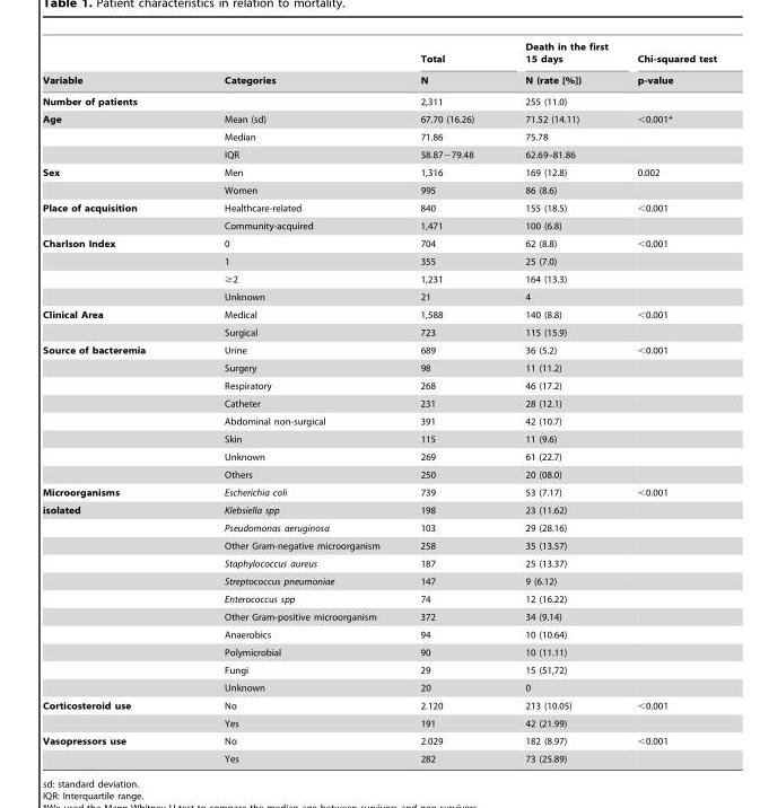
<table><thead><tr><td rowspan="2">Variable</td><td rowspan="2">Categories</td><td rowspan="2">Total N</td><td rowspan="2">Death in the first 15 days N (rate [%])</td><td rowspan="2">Chi-squared test p-value</td></tr><tr></tr></thead><tbody><tr><td>Number of patients</td><td></td><td>2,311</td><td>255 (11.0)</td><td></td></tr><tr><td rowspan="3">Age</td><td>Mean (sd)</td><td>67.70 (16.26)</td><td>71.52 (14.11)</td><td>&lt;0.001*</td></tr><tr><td>Median</td><td>71.86</td><td>75.78</td><td></td></tr><tr><td>IQR</td><td>58.87−79.48</td><td>62.69–81.86</td><td></td></tr><tr><td rowspan="2">Sex</td><td>Men</td><td>1,316</td><td>169 (12.8)</td><td>0.002</td></tr><tr><td>Women</td><td>995</td><td>86 (8.6)</td><td></td></tr><tr><td rowspan="2">Place of acquisition</td><td>Healthcare-related</td><td>840</td><td>155 (18.5)</td><td>&lt;0.001</td></tr><tr><td>Community-acquired</td><td>1,471</td><td>100 (6.8)</td><td></td></tr><tr><td rowspan="4">Charlson Index</td><td>0</td><td>704</td><td>62 (8.8)</td><td>&lt;0.001</td></tr><tr><td>1</td><td>355</td><td>25 (7.0)</td><td></td></tr><tr><td>≥2</td><td>1,231</td><td>164 (13.3)</td><td></td></tr><tr><td>Unknown</td><td>21</td><td>4</td><td></td></tr><tr><td rowspan="2">Clinical Area</td><td>Medical</td><td>1,588</td><td>140 (8.8)</td><td>&lt;0.001</td></tr><tr><td>Surgical</td><td>723</td><td>115 (15.9)</td><td></td></tr><tr><td rowspan="8">Source of bacteremia</td><td>Urine</td><td>689</td><td>36 (5.2)</td><td>&lt;0.001</td></tr><tr><td>Surgery</td><td>98</td><td>11 (11.2)</td><td></td></tr><tr><td>Respiratory</td><td>268</td><td>46 (17.2)</td><td></td></tr><tr><td>Catheter</td><td>231</td><td>28 (12.1)</td><td></td></tr><tr><td>Abdominal non-surgical</td><td>391</td><td>42 (10.7)</td><td></td></tr><tr><td>Skin</td><td>115</td><td>11 (9.6)</td><td></td></tr><tr><td>Unknown</td><td>269</td><td>61 (22.7)</td><td></td></tr><tr><td>Others</td><td>250</td><td>20 (08.0)</td><td></td></tr><tr><td>Microorganisms</td><td>Escherichia coli</td><td>739</td><td>53 (7.17)</td><td>&lt;0.001</td></tr><tr><td rowspan="11">isolated</td><td>Klebsiella spp</td><td>198</td><td>23 (11.62)</td><td></td></tr><tr><td>Pseudomonas aeruginosa</td><td>103</td><td>29 (28.16)</td><td></td></tr><tr><td>Other Gram-negative microorganism</td><td>258</td><td>35 (13.57)</td><td></td></tr><tr><td>Staphylococcus aureus</td><td>187</td><td>25 (13.37)</td><td></td></tr><tr><td>Streptococcus pneumoniae</td><td>147</td><td>9 (6.12)</td><td></td></tr><tr><td>Enterococcus spp</td><td>74</td><td>12 (16.22)</td><td></td></tr><tr><td>Other Gram-positive microorganism</td><td>372</td><td>34 (9.14)</td><td></td></tr><tr><td>Anaerobics</td><td>94</td><td>10 (10.64)</td><td></td></tr><tr><td>Polymicrobial</td><td>90</td><td>10 (11.11)</td><td></td></tr><tr><td>Fungi</td><td>29</td><td>15 (51,72)</td><td></td></tr><tr><td>Unknown</td><td>20</td><td>0</td><td></td></tr><tr><td rowspan="2">Corticosteroid use</td><td>No</td><td>2.120</td><td>213 (10.05)</td><td>&lt;0.001</td></tr><tr><td>Yes</td><td>191</td><td>42 (21.99)</td><td></td></tr><tr><td rowspan="2">Vasopressors use</td><td>No</td><td>2.029</td><td>182 (8.97)</td><td>&lt;0.001</td></tr><tr><td>Yes</td><td>282</td><td>73 (25.89)</td><td></td></tr></tbody></table>